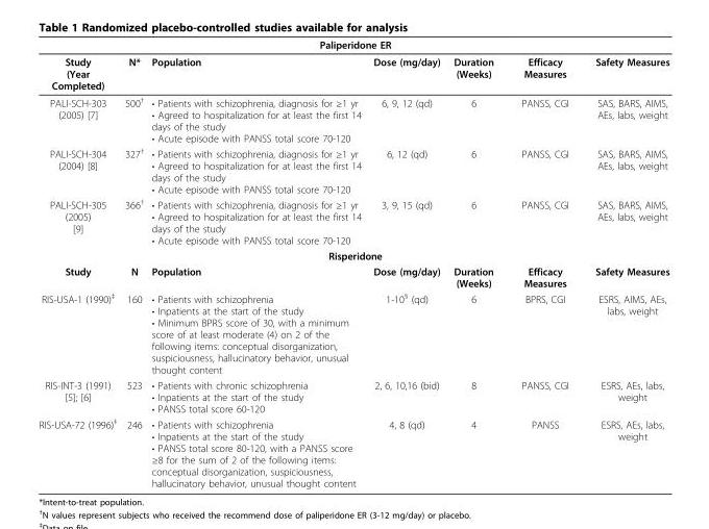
<table><thead><tr><td colspan="7">Paliperidone ER</td></tr><tr><td>Study (Year Completed)</td><td>N*</td><td>Population</td><td>Dose (mg/day)</td><td>Duration (Weeks)</td><td>Efficacy Measures</td><td>Safety Measures</td></tr></thead><tbody><tr><td>PALI-SCH-303 (2005) [7]</td><td>500<sup>†</sup></td><td>• Patients with schizophrenia, diagnosis for ≥1 yr • Agreed to hospitalization for at least the first 14 days of the study • Acute episode with PANSS total score 70-120</td><td>6, 9, 12 (qd)</td><td>6</td><td>PANSS, CGI</td><td>SAS, BARS, AIMS, AEs, labs, weight</td></tr><tr><td>PALI-SCH-304 (2004) [8]</td><td>327<sup>†</sup></td><td>• Patients with schizophrenia, diagnosis for ≥1 yr • Agreed to hospitalization for at least the first 14 days of the study • Acute episode with PANSS total score 70-120</td><td>6, 12 (qd)</td><td>6</td><td>PANSS, CGI</td><td>SAS, BARS, AIMS, AEs, labs, weight</td></tr><tr><td>PALI-SCH-305 (2005) [9]</td><td>366<sup>†</sup></td><td>• Patients with schizophrenia, diagnosis for ≥1 yr • Agreed to hospitalization for at least the first 14 days of the study • Acute episode with PANSS total score 70-120</td><td>3, 9, 15 (qd)</td><td>6</td><td>PANSS, CGI</td><td>SAS, BARS, AIMS, AEs, labs, weight</td></tr><tr><td colspan="7">Risperidone</td></tr><tr><td>Study</td><td>N</td><td>Population</td><td>Dose (mg/day)</td><td>Duration (Weeks)</td><td>Efficacy Measures</td><td>Safety Measures</td></tr><tr><td>RIS-USA-1 (1990)<sup>‡</sup></td><td>160</td><td>• Patients with schizophrenia • Inpatients at the start of the study • Minimum BPRS score of 30, with a minimum score of at least moderate (4) on 2 of the following items: conceptual disorganization, suspiciousness, hallucinatory behavior, unusual thought content</td><td>1-10<sup>§</sup> (qd)</td><td>6</td><td>BPRS, CGI</td><td>ESRS, AIMS, AEs, labs, weight</td></tr><tr><td>RIS-INT-3 (1991) [5]; [6]</td><td>523</td><td>• Patients with chronic schizophrenia • Inpatients at the start of the study • PANSS total score 60-120</td><td>2, 6, 10,16 (bid)</td><td>8</td><td>PANSS, CGI</td><td>ESRS, AEs, labs, weight</td></tr><tr><td>RIS-USA-72 (1996)<sup>‡</sup></td><td>246</td><td>• Patients with schizophrenia • Inpatients at the start of the study • PANSS total score 80-120, with a PANSS score ≥8 for the sum of 2 of the following items: conceptual disorganization, suspiciousness, hallucinatory behavior, unusual thought content</td><td>4, 8 (qd)</td><td>4</td><td>PANSS</td><td>ESRS, AEs, labs, weight</td></tr></tbody></table>